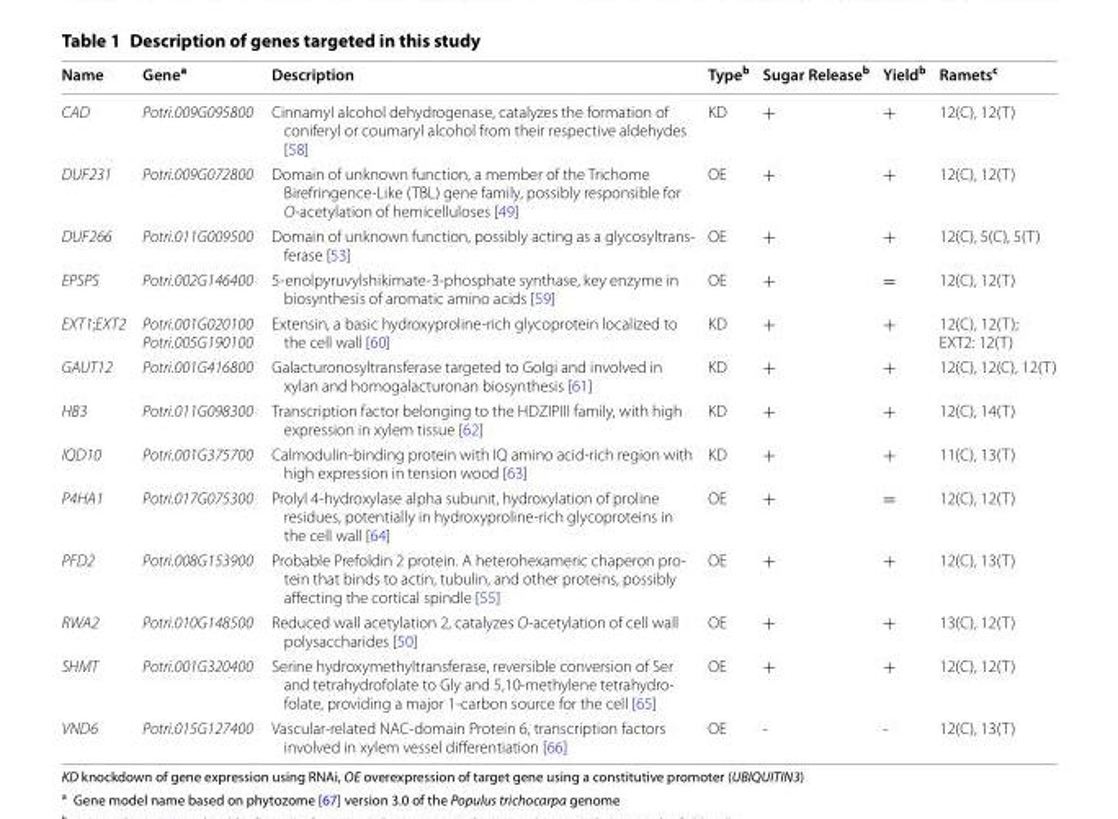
<table><thead><tr><td>Name</td><td>Gene<sup>a</sup></td><td>Description</td><td>Type<sup>b</sup></td><td>Sugar Release<sup>b</sup></td><td>Yield<sup>b</sup></td><td>Ramets<sup>c</sup></td></tr></thead><tbody><tr><td>CAD</td><td>Potri.009G095800</td><td>Cinnamyl alcohol dehydrogenase, catalyzes the formation of coniferyl or coumaryl alcohol from their respective aldehydes [58]</td><td>KD</td><td>+</td><td>+</td><td>12(C), 12(T)</td></tr><tr><td>DUF231</td><td>Potri.009G072800</td><td>Domain of unknown function, a member of the Trichome Birefringence‑Like (TBL) gene family, possibly responsible for O‑acetylation of hemicelluloses [49]</td><td>OE</td><td>+</td><td>+</td><td>12(C), 12(T)</td></tr><tr><td>DUF266</td><td>Potri.011G009500</td><td>Domain of unknown function, possibly acting as a glycosyltrans‑ ferase [53]</td><td>OE</td><td>+</td><td>+</td><td>12(C), 5(C), 5(T)</td></tr><tr><td>EPSPS</td><td>Potri.002G146400</td><td>5‑enolpyruvylshikimate‑3‑phosphate synthase, key enzyme in biosynthesis of aromatic amino acids [59]</td><td>OE</td><td>+</td><td>=</td><td>12(C), 12(T)</td></tr><tr><td>EXT1;EXT2</td><td>Potri.001G020100 Potri.005G190100</td><td>Extensin, a basic hydroxyproline‑rich glycoprotein localized to the cell wall [60]</td><td>KD</td><td>+</td><td>+</td><td>12(C), 12(T); EXT2: 12(T)</td></tr><tr><td>GAUT12</td><td>Potri.001G416800</td><td>Galacturonosyltransferase targeted to Golgi and involved in xylan and homogalacturonan biosynthesis [61]</td><td>KD</td><td>+</td><td>+</td><td>12(C), 12(C), 12(T)</td></tr><tr><td>HB3</td><td>Potri.011G098300</td><td>Transcription factor belonging to the HDZIPIII family, with high expression in xylem tissue [62]</td><td>KD</td><td>+</td><td>+</td><td>12(C), 14(T)</td></tr><tr><td>IQD10</td><td>Potri.001G375700</td><td>Calmodulin‑binding protein with IQ amino acid‑rich region with high expression in tension wood [63]</td><td>KD</td><td>+</td><td>+</td><td>11(C), 13(T)</td></tr><tr><td>P4HA1</td><td>Potri.017G075300</td><td>Prolyl 4‑hydroxylase alpha subunit, hydroxylation of proline residues, potentially in hydroxyproline‑rich glycoproteins in the cell wall [64]</td><td>OE</td><td>+</td><td>=</td><td>12(C), 12(T)</td></tr><tr><td>PFD2</td><td>Potri.008G153900</td><td>Probable Prefoldin 2 protein. A heterohexameric chaperon pro‑ tein that binds to actin, tubulin, and other proteins, possibly affecting the cortical spindle [55]</td><td>OE</td><td>+</td><td>+</td><td>12(C), 13(T)</td></tr><tr><td>RWA2</td><td>Potri.010G148500</td><td>Reduced wall acetylation 2, catalyzes O‑acetylation of cell wall polysaccharides [50]</td><td>OE</td><td>+</td><td>+</td><td>13(C), 12(T)</td></tr><tr><td>SHMT</td><td>Potri.001G320400</td><td>Serine hydroxymethyltransferase, reversible conversion of Ser and tetrahydrofolate to Gly and 5,10‑methylene tetrahydro‑ folate, providing a major 1‑carbon source for the cell [65]</td><td>OE</td><td>+</td><td>+</td><td>12(C), 12(T)</td></tr><tr><td>VND6</td><td>Potri.015G127400</td><td>Vascular‑related NAC‑domain Protein 6, transcription factors involved in xylem vessel differentiation [66]</td><td>OE</td><td>‑</td><td>‑</td><td>12(C), 13(T)</td></tr></tbody></table>